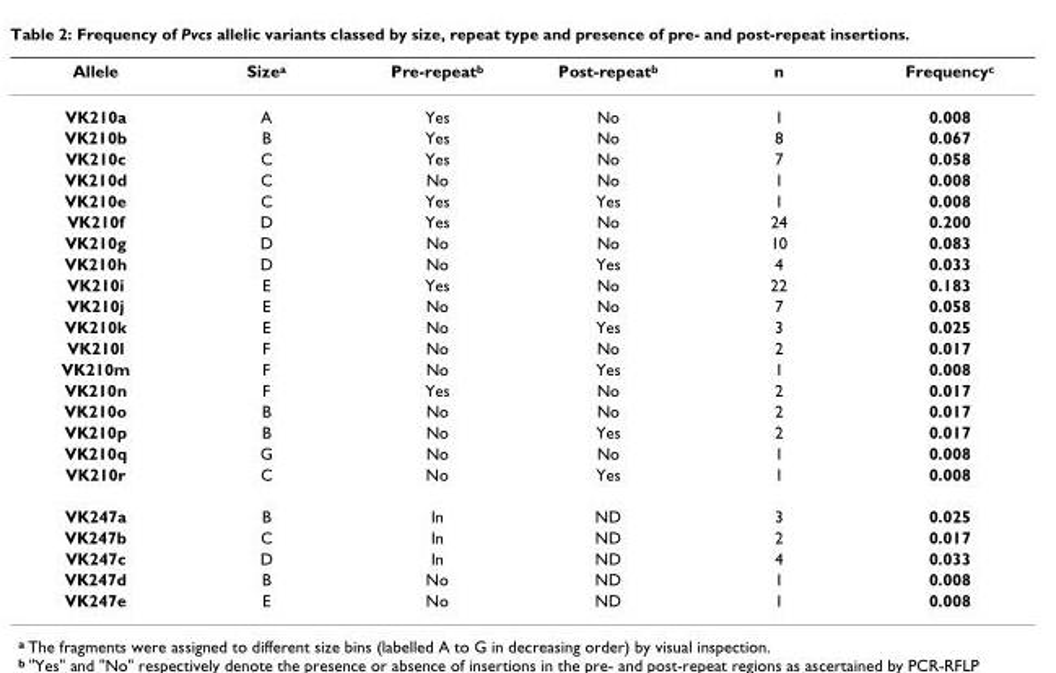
<table><thead><tr><td>Allele</td><td>Size<sup>a</sup></td><td>Pre-repeat<sup>b</sup></td><td>Post-repeat<sup>b</sup></td><td>n</td><td>Frequency<sup>c</sup></td></tr></thead><tbody><tr><td>VK210a</td><td>A</td><td>Yes</td><td>No</td><td>1</td><td>0.008</td></tr><tr><td>VK210b</td><td>B</td><td>Yes</td><td>No</td><td>8</td><td>0.067</td></tr><tr><td>VK210c</td><td>C</td><td>Yes</td><td>No</td><td>7</td><td>0.058</td></tr><tr><td>VK210d</td><td>C</td><td>No</td><td>No</td><td>1</td><td>0.008</td></tr><tr><td>VK210e</td><td>C</td><td>Yes</td><td>Yes</td><td>1</td><td>0.008</td></tr><tr><td>VK210f</td><td>D</td><td>Yes</td><td>No</td><td>24</td><td>0.200</td></tr><tr><td>VK210g</td><td>D</td><td>No</td><td>No</td><td>10</td><td>0.083</td></tr><tr><td>VK210h</td><td>D</td><td>No</td><td>Yes</td><td>4</td><td>0.033</td></tr><tr><td>VK210i</td><td>E</td><td>Yes</td><td>No</td><td>22</td><td>0.183</td></tr><tr><td>VK210j</td><td>E</td><td>No</td><td>No</td><td>7</td><td>0.058</td></tr><tr><td>VK210k</td><td>E</td><td>No</td><td>Yes</td><td>3</td><td>0.025</td></tr><tr><td>VK210l</td><td>F</td><td>No</td><td>No</td><td>2</td><td>0.017</td></tr><tr><td>VK210m</td><td>F</td><td>No</td><td>Yes</td><td>1</td><td>0.008</td></tr><tr><td>VK210n</td><td>F</td><td>Yes</td><td>No</td><td>2</td><td>0.017</td></tr><tr><td>VK210o</td><td>B</td><td>No</td><td>No</td><td>2</td><td>0.017</td></tr><tr><td>VK210p</td><td>B</td><td>No</td><td>Yes</td><td>2</td><td>0.017</td></tr><tr><td>VK210q</td><td>G</td><td>No</td><td>No</td><td>1</td><td>0.008</td></tr><tr><td>VK210r</td><td>C</td><td>No</td><td>Yes</td><td>1</td><td>0.008</td></tr><tr><td>VK247a</td><td>B</td><td>In</td><td>ND</td><td>3</td><td>0.025</td></tr><tr><td>VK247b</td><td>C</td><td>In</td><td>ND</td><td>2</td><td>0.017</td></tr><tr><td>VK247c</td><td>D</td><td>In</td><td>ND</td><td>4</td><td>0.033</td></tr><tr><td>VK247d</td><td>B</td><td>No</td><td>ND</td><td>1</td><td>0.008</td></tr><tr><td>VK247e</td><td>E</td><td>No</td><td>ND</td><td>1</td><td>0.008</td></tr></tbody></table>